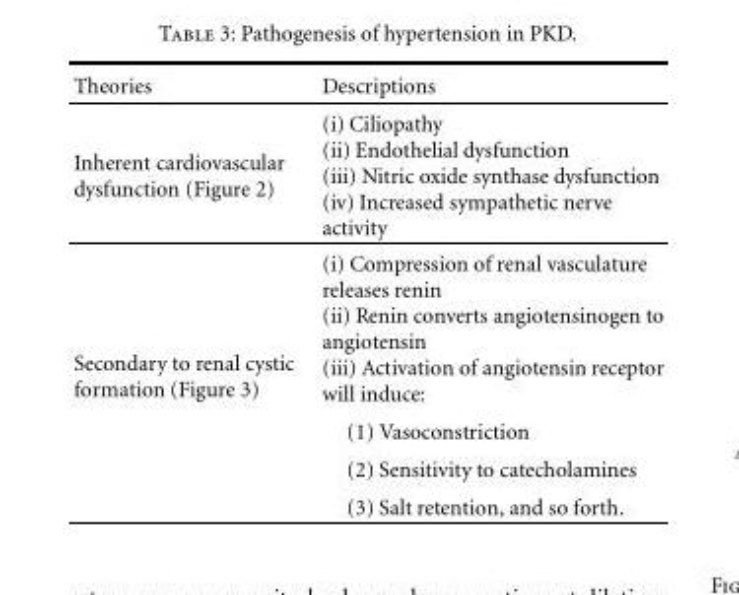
<table><thead><tr><td>Theories</td><td>Descriptions</td></tr></thead><tbody><tr><td>Inherent cardiovascular dysfunction (Figure 2)</td><td>(i) Ciliopathy (ii) Endothelial dysfunction (iii) Nitric oxide synthase dysfunction (iv) Increased sympathetic nerve activity</td></tr><tr><td rowspan="4">Secondary to renal cystic formation (Figure 3)</td><td>(i) Compression of renal vasculature releases renin (ii) Renin converts angiotensinogen to angiotensin (iii) Activation of angiotensin receptor will induce:</td></tr><tr><td>(1) Vasoconstriction</td></tr><tr><td>(2) Sensitivity to catecholamines</td></tr><tr><td>(3) Salt retention, and so forth.</td></tr></tbody></table>